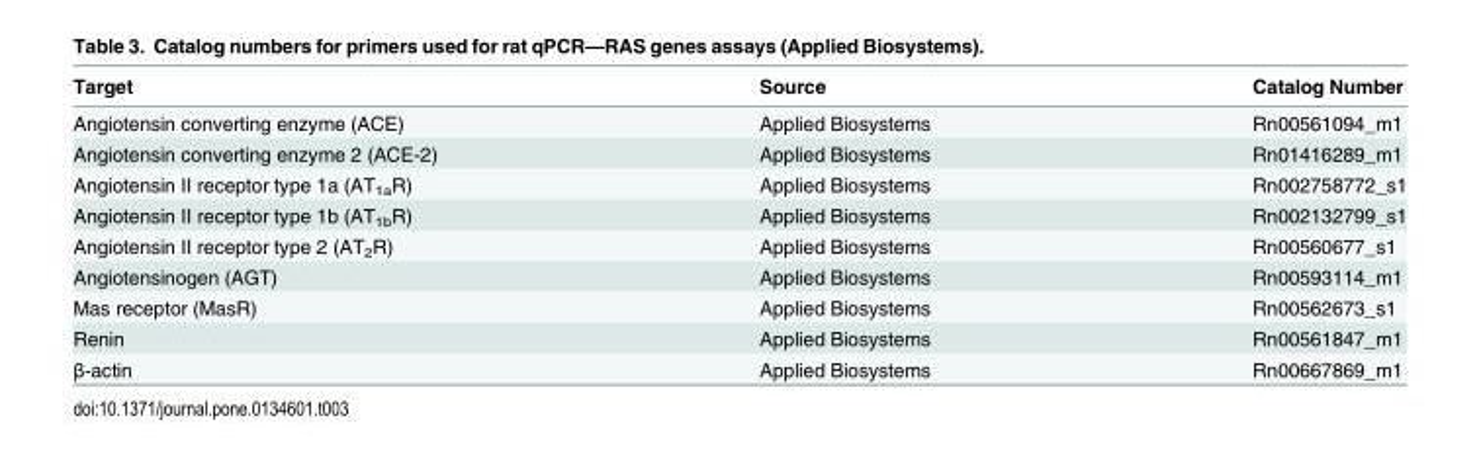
<table><thead><tr><td>Target</td><td>Source</td><td>Catalog Number</td></tr></thead><tbody><tr><td>Angiotensin converting enzyme (ACE)</td><td>Applied Biosystems</td><td>Rn00561094_m1</td></tr><tr><td>Angiotensin converting enzyme 2 (ACE-2)</td><td>Applied Biosystems</td><td>Rn01416289_m1</td></tr><tr><td>Angiotensin II receptor type 1a (AT<sub>1a</sub>R)</td><td>Applied Biosystems</td><td>Rn002758772_s1</td></tr><tr><td>Angiotensin II receptor type 1b (AT<sub>1b</sub>R)</td><td>Applied Biosystems</td><td>Rn002132799_s1</td></tr><tr><td>Angiotensin II receptor type 2 (AT<sub>2</sub>R)</td><td>Applied Biosystems</td><td>Rn00560677_s1</td></tr><tr><td>Angiotensinogen (AGT)</td><td>Applied Biosystems</td><td>Rn00593114_m1</td></tr><tr><td>Mas receptor (MasR)</td><td>Applied Biosystems</td><td>Rn00562673_s1</td></tr><tr><td>Renin</td><td>Applied Biosystems</td><td>Rn00561847_m1</td></tr><tr><td>β-actin</td><td>Applied Biosystems</td><td>Rn00667869_m1</td></tr></tbody></table>